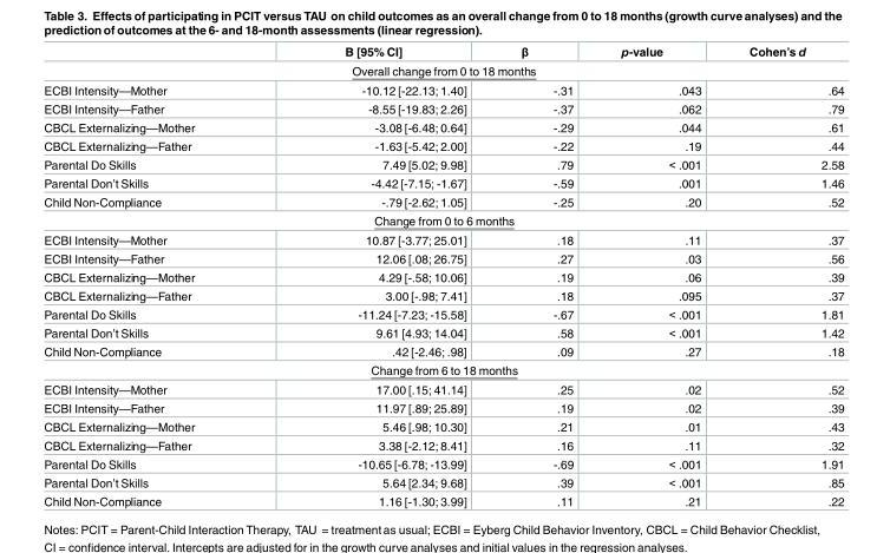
<table><thead><tr><td></td><td>B [95% CI]</td><td>β</td><td>p-value</td><td>Cohen’s d</td></tr></thead><tbody><tr><td colspan="5">Overall change from 0 to 18 months</td></tr><tr><td>ECBI Intensity—Mother</td><td>-10.12 [-22.13; 1.40]</td><td>-.31</td><td>.043</td><td>.64</td></tr><tr><td>ECBI Intensity—Father</td><td>-8.55 [-19.83; 2.26]</td><td>-.37</td><td>.062</td><td>.79</td></tr><tr><td>CBCL Externalizing—Mother</td><td>-3.08 [-6.48; 0.64]</td><td>-.29</td><td>.044</td><td>.61</td></tr><tr><td>CBCL Externalizing—Father</td><td>-1.63 [-5.42; 2.00]</td><td>-.22</td><td>.19</td><td>.44</td></tr><tr><td>Parental Do Skills</td><td>7.49 [5.02; 9.98]</td><td>.79</td><td>&lt; .001</td><td>2.58</td></tr><tr><td>Parental Don’t Skills</td><td>-4.42 [-7.15; -1.67]</td><td>-.59</td><td>.001</td><td>1.46</td></tr><tr><td>Child Non-Compliance</td><td>-.79 [-2.62; 1.05]</td><td>-.25</td><td>.20</td><td>.52</td></tr><tr><td colspan="5">Change from 0 to 6 months</td></tr><tr><td>ECBI Intensity—Mother</td><td>10.87 [-3.77; 25.01]</td><td>.18</td><td>.11</td><td>.37</td></tr><tr><td>ECBI Intensity—Father</td><td>12.06 [.08; 26.75]</td><td>.27</td><td>.03</td><td>.56</td></tr><tr><td>CBCL Externalizing—Mother</td><td>4.29 [-.58; 10.06]</td><td>.19</td><td>.06</td><td>.39</td></tr><tr><td>CBCL Externalizing—Father</td><td>3.00 [-.98; 7.41]</td><td>.18</td><td>.095</td><td>.37</td></tr><tr><td>Parental Do Skills</td><td>-11.24 [-7.23; -15.58]</td><td>-.67</td><td>&lt; .001</td><td>1.81</td></tr><tr><td>Parental Don’t Skills</td><td>9.61 [4.93; 14.04]</td><td>.58</td><td>&lt; .001</td><td>1.42</td></tr><tr><td>Child Non-Compliance</td><td>.42 [-2.46; .98]</td><td>.09</td><td>.27</td><td>.18</td></tr><tr><td colspan="5">Change from 6 to 18 months</td></tr><tr><td>ECBI Intensity—Mother</td><td>17.00 [.15; 41.14]</td><td>.25</td><td>.02</td><td>.52</td></tr><tr><td>ECBI Intensity—Father</td><td>11.97 [.89; 25.89]</td><td>.19</td><td>.02</td><td>.39</td></tr><tr><td>CBCL Externalizing—Mother</td><td>5.46 [.98; 10.30]</td><td>.21</td><td>.01</td><td>.43</td></tr><tr><td>CBCL Externalizing—Father</td><td>3.38 [-2.12; 8.41]</td><td>.16</td><td>.11</td><td>.32</td></tr><tr><td>Parental Do Skills</td><td>-10.65 [-6.78; -13.99]</td><td>-.69</td><td>&lt; .001</td><td>1.91</td></tr><tr><td>Parental Don’t Skills</td><td>5.64 [2.34; 9.68]</td><td>.39</td><td>&lt; .001</td><td>.85</td></tr><tr><td>Child Non-Compliance</td><td>1.16 [-1.30; 3.99]</td><td>.11</td><td>.21</td><td>.22</td></tr></tbody></table>